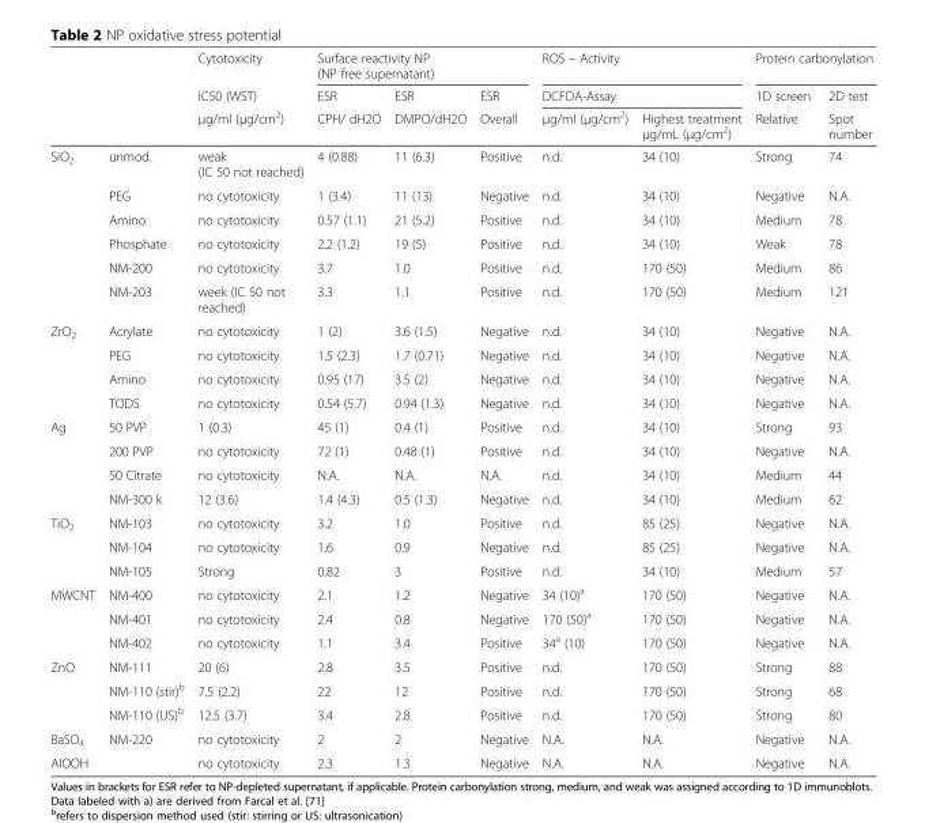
<table><thead><tr><td rowspan="3"></td><td rowspan="3"></td><td rowspan="3">Cytotoxicity IC50 (WST) μg/ml (μg/cm<sup>2</sup>)</td><td colspan="3">Surface reactivity NP (NP free supernatant)</td><td rowspan="2" colspan="2">ROS – Activity DCFDA-Assay</td><td colspan="2">Protein carbonylation</td></tr><tr><td rowspan="2">ESR CPH/ dH2O</td><td rowspan="2">ESR DMPO/dH2O</td><td rowspan="2">ESR Overall</td><td rowspan="2">1D screen Relative</td><td rowspan="2">2D test Spot number</td></tr><tr><td>μg/ml (μg/cm<sup>2</sup>)</td><td>Highest treatment μg/mL (μg/cm<sup>2</sup>)</td></tr></thead><tbody><tr><td rowspan="6">SiO<sub>2</sub></td><td>unmod.</td><td>weak (IC 50 not reached)</td><td>4 (0.88)</td><td>11 (6.3)</td><td>Positive</td><td>n.d.</td><td>34 (10)</td><td>Strong</td><td>74</td></tr><tr><td>PEG</td><td>no cytotoxicity</td><td>1 (3.4)</td><td>11 (13)</td><td>Negative</td><td>n.d.</td><td>34 (10)</td><td>Negative</td><td>N.A.</td></tr><tr><td>Amino</td><td>no cytotoxicity</td><td>0.57 (1.1)</td><td>21 (5.2)</td><td>Positive</td><td>n.d.</td><td>34 (10)</td><td>Medium</td><td>78</td></tr><tr><td>Phosphate</td><td>no cytotoxicity</td><td>2.2 (1.2)</td><td>19 (5)</td><td>Positive</td><td>n.d.</td><td>34 (10)</td><td>Weak</td><td>78</td></tr><tr><td>NM-200</td><td>no cytotoxicity</td><td>3.7</td><td>1.0</td><td>Positive</td><td>n.d.</td><td>170 (50)</td><td>Medium</td><td>86</td></tr><tr><td>NM-203</td><td>week (IC 50 not reached)</td><td>3.3</td><td>1.1</td><td>Positive</td><td>n.d.</td><td>170 (50)</td><td>Medium</td><td>121</td></tr><tr><td rowspan="4">ZrO<sub>2</sub></td><td>Acrylate</td><td>no cytotoxicity</td><td>1 (2)</td><td>3.6 (1.5)</td><td>Negative</td><td>n.d.</td><td>34 (10)</td><td>Negative</td><td>N.A.</td></tr><tr><td>PEG</td><td>no cytotoxicity</td><td>1.5 (2.3)</td><td>1.7 (0.71)</td><td>Negative</td><td>n.d.</td><td>34 (10)</td><td>Negative</td><td>N.A.</td></tr><tr><td>Amino</td><td>no cytotoxicity</td><td>0.95 (17)</td><td>3.5 (2)</td><td>Negative</td><td>n.d.</td><td>34 (10)</td><td>Negative</td><td>N.A.</td></tr><tr><td>TODS</td><td>no cytotoxicity</td><td>0.54 (5.7)</td><td>0.94 (1.3)</td><td>Negative</td><td>n.d.</td><td>34 (10)</td><td>Negative</td><td>N.A.</td></tr><tr><td rowspan="4">Ag</td><td>50 PVP</td><td>1 (0.3)</td><td>45 (1)</td><td>0.4 (1)</td><td>Positive</td><td>n.d.</td><td>34 (10)</td><td>Strong</td><td>93</td></tr><tr><td>200 PVP</td><td>no cytotoxicity</td><td>72 (1)</td><td>0.48 (1)</td><td>Positive</td><td>n.d.</td><td>34 (10)</td><td>Negative</td><td>N.A.</td></tr><tr><td>50 Citrate</td><td>no cytotoxicity</td><td>N.A.</td><td>N.A.</td><td>N.A.</td><td>n.d.</td><td>34 (10)</td><td>Medium</td><td>44</td></tr><tr><td>NM-300 k</td><td>12 (3.6)</td><td>1.4 (4.3)</td><td>0.5 (1.3)</td><td>Negative</td><td>n.d.</td><td>34 (10)</td><td>Medium</td><td>62</td></tr><tr><td rowspan="3">TiO<sub>2</sub></td><td>NM-103</td><td>no cytotoxicity</td><td>3.2</td><td>1.0</td><td>Positive</td><td>n.d.</td><td>85 (25)</td><td>Negative</td><td>N.A.</td></tr><tr><td>NM-104</td><td>no cytotoxicity</td><td>1.6</td><td>0.9</td><td>Negative</td><td>n.d.</td><td>85 (25)</td><td>Negative</td><td>N.A.</td></tr><tr><td>NM-105</td><td>Strong</td><td>0.82</td><td>3</td><td>Positive</td><td>n.d.</td><td>34 (10)</td><td>Medium</td><td>57</td></tr><tr><td rowspan="3">MWCNT</td><td>NM-400</td><td>no cytotoxicity</td><td>2.1</td><td>1.2</td><td>Negative</td><td>34 (10)<sup>a</sup></td><td>170 (50)</td><td>Negative</td><td>N.A.</td></tr><tr><td>NM-401</td><td>no cytotoxicity</td><td>2.4</td><td>0.8</td><td>Negative</td><td>170 (50)<sup>a</sup></td><td>170 (50)</td><td>Negative</td><td>N.A.</td></tr><tr><td>NM-402</td><td>no cytotoxicity</td><td>1.1</td><td>3.4</td><td>Positive</td><td>34<sup>a</sup> (10)</td><td>170 (50)</td><td>Negative</td><td>N.A.</td></tr><tr><td rowspan="3">ZnO</td><td>NM-111</td><td>20 (6)</td><td>2.8</td><td>3.5</td><td>Positive</td><td>n.d.</td><td>170 (50)</td><td>Strong</td><td>88</td></tr><tr><td>NM-110 (stir)<sup>b</sup></td><td>7.5 (2.2)</td><td>22</td><td>12</td><td>Positive</td><td>n.d.</td><td>170 (50)</td><td>Strong</td><td>68</td></tr><tr><td>NM-110 (US)<sup>b</sup></td><td>12.5 (3.7)</td><td>3.4</td><td>2.8</td><td>Positive</td><td>n.d.</td><td>170 (50)</td><td>Strong</td><td>80</td></tr><tr><td>BaSO<sub>4</sub></td><td>NM-220</td><td>no cytotoxicity</td><td>2</td><td>2</td><td>Negative</td><td>N.A.</td><td>N.A.</td><td>Negative</td><td>N.A.</td></tr><tr><td colspan="2">AlOOH</td><td>no cytotoxicity</td><td>2.3</td><td>1.3</td><td>Negative</td><td>N.A.</td><td>N.A.</td><td>Negative</td><td>N.A.</td></tr></tbody></table>